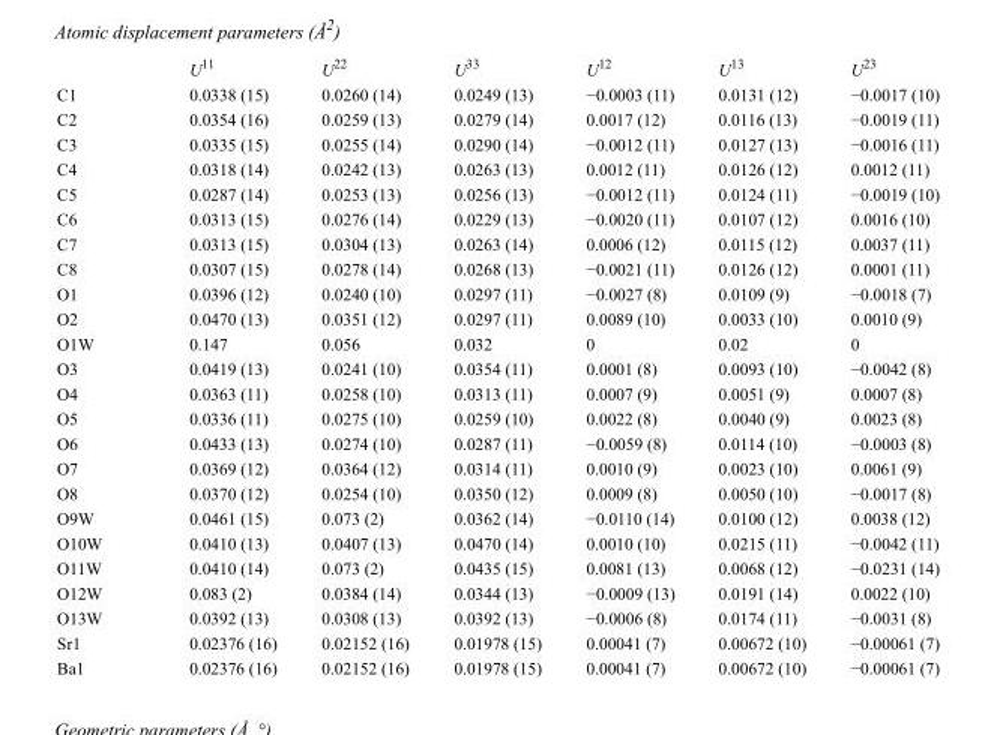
<table><thead><tr><td></td><td>U<sup>11</sup></td><td>U<sup>22</sup></td><td>U<sup>33</sup></td><td>U<sup>12</sup></td><td>U<sup>13</sup></td><td>U<sup>23</sup></td></tr></thead><tbody><tr><td>C1</td><td>0.0338 (15)</td><td>0.0260 (14)</td><td>0.0249 (13)</td><td>−0.0003 (11)</td><td>0.0131 (12)</td><td>−0.0017 (10)</td></tr><tr><td>C2</td><td>0.0354 (16)</td><td>0.0259 (13)</td><td>0.0279 (14)</td><td>0.0017 (12)</td><td>0.0116 (13)</td><td>−0.0019 (11)</td></tr><tr><td>C3</td><td>0.0335 (15)</td><td>0.0255 (14)</td><td>0.0290 (14)</td><td>−0.0012 (11)</td><td>0.0127 (13)</td><td>−0.0016 (11)</td></tr><tr><td>C4</td><td>0.0318 (14)</td><td>0.0242 (13)</td><td>0.0263 (13)</td><td>0.0012 (11)</td><td>0.0126 (12)</td><td>0.0012 (11)</td></tr><tr><td>C5</td><td>0.0287 (14)</td><td>0.0253 (13)</td><td>0.0256 (13)</td><td>−0.0012 (11)</td><td>0.0124 (11)</td><td>−0.0019 (10)</td></tr><tr><td>C6</td><td>0.0313 (15)</td><td>0.0276 (14)</td><td>0.0229 (13)</td><td>−0.0020 (11)</td><td>0.0107 (12)</td><td>0.0016 (10)</td></tr><tr><td>C7</td><td>0.0313 (15)</td><td>0.0304 (13)</td><td>0.0263 (14)</td><td>0.0006 (12)</td><td>0.0115 (12)</td><td>0.0037 (11)</td></tr><tr><td>C8</td><td>0.0307 (15)</td><td>0.0278 (14)</td><td>0.0268 (13)</td><td>−0.0021 (11)</td><td>0.0126 (12)</td><td>0.0001 (11)</td></tr><tr><td>O1</td><td>0.0396 (12)</td><td>0.0240 (10)</td><td>0.0297 (11)</td><td>−0.0027 (8)</td><td>0.0109 (9)</td><td>−0.0018 (7)</td></tr><tr><td>O2</td><td>0.0470 (13)</td><td>0.0351 (12)</td><td>0.0297 (11)</td><td>0.0089 (10)</td><td>0.0033 (10)</td><td>0.0010 (9)</td></tr><tr><td>O1W</td><td>0.147</td><td>0.056</td><td>0.032</td><td>0</td><td>0.02</td><td>0</td></tr><tr><td>O3</td><td>0.0419 (13)</td><td>0.0241 (10)</td><td>0.0354 (11)</td><td>0.0001 (8)</td><td>0.0093 (10)</td><td>−0.0042 (8)</td></tr><tr><td>O4</td><td>0.0363 (11)</td><td>0.0258 (10)</td><td>0.0313 (11)</td><td>0.0007 (9)</td><td>0.0051 (9)</td><td>0.0007 (8)</td></tr><tr><td>O5</td><td>0.0336 (11)</td><td>0.0275 (10)</td><td>0.0259 (10)</td><td>0.0022 (8)</td><td>0.0040 (9)</td><td>0.0023 (8)</td></tr><tr><td>O6</td><td>0.0433 (13)</td><td>0.0274 (10)</td><td>0.0287 (11)</td><td>−0.0059 (8)</td><td>0.0114 (10)</td><td>−0.0003 (8)</td></tr><tr><td>O7</td><td>0.0369 (12)</td><td>0.0364 (12)</td><td>0.0314 (11)</td><td>0.0010 (9)</td><td>0.0023 (10)</td><td>0.0061 (9)</td></tr><tr><td>O8</td><td>0.0370 (12)</td><td>0.0254 (10)</td><td>0.0350 (12)</td><td>0.0009 (8)</td><td>0.0050 (10)</td><td>−0.0017 (8)</td></tr><tr><td>O9W</td><td>0.0461 (15)</td><td>0.073 (2)</td><td>0.0362 (14)</td><td>−0.0110 (14)</td><td>0.0100 (12)</td><td>0.0038 (12)</td></tr><tr><td>O10W</td><td>0.0410 (13)</td><td>0.0407 (13)</td><td>0.0470 (14)</td><td>0.0010 (10)</td><td>0.0215 (11)</td><td>−0.0042 (11)</td></tr><tr><td>O11W</td><td>0.0410 (14)</td><td>0.073 (2)</td><td>0.0435 (15)</td><td>0.0081 (13)</td><td>0.0068 (12)</td><td>−0.0231 (14)</td></tr><tr><td>O12W</td><td>0.083 (2)</td><td>0.0384 (14)</td><td>0.0344 (13)</td><td>−0.0009 (13)</td><td>0.0191 (14)</td><td>0.0022 (10)</td></tr><tr><td>O13W</td><td>0.0392 (13)</td><td>0.0308 (13)</td><td>0.0392 (13)</td><td>−0.0006 (8)</td><td>0.0174 (11)</td><td>−0.0031 (8)</td></tr><tr><td>Sr1</td><td>0.02376 (16)</td><td>0.02152 (16)</td><td>0.01978 (15)</td><td>0.00041 (7)</td><td>0.00672 (10)</td><td>−0.00061 (7)</td></tr><tr><td>Ba1</td><td>0.02376 (16)</td><td>0.02152 (16)</td><td>0.01978 (15)</td><td>0.00041 (7)</td><td>0.00672 (10)</td><td>−0.00061 (7)</td></tr></tbody></table>